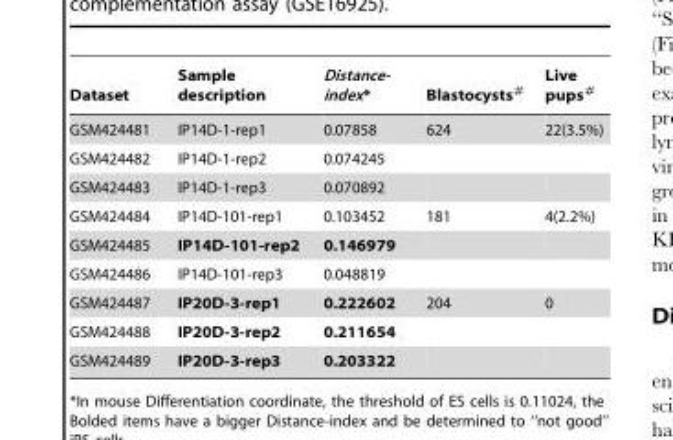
<table><thead><tr><td>Dataset</td><td>Sample description</td><td>Distance- index*</td><td>Blastocysts#</td><td>Live pups#</td></tr></thead><tbody><tr><td>GSM424481</td><td>IP14D-1-rep1</td><td>0.07858</td><td>624</td><td>22(3.5%)</td></tr><tr><td>GSM424482</td><td>IP14D-1-rep2</td><td>0.074245</td><td></td><td></td></tr><tr><td>GSM424483</td><td>IP14D-1-rep3</td><td>0.070892</td><td></td><td></td></tr><tr><td>GSM424484</td><td>IP14D-101-rep1</td><td>0.103452</td><td>181</td><td>4(2.2%)</td></tr><tr><td>GSM424485</td><td>IP14D-101-rep2</td><td>0.146979</td><td></td><td></td></tr><tr><td>GSM424486</td><td>IP14D-101-rep3</td><td>0.048819</td><td></td><td></td></tr><tr><td>GSM424487</td><td>IP20D-3-rep1</td><td>0.222602</td><td>204</td><td>0</td></tr><tr><td>GSM424488</td><td>IP20D-3-rep2</td><td>0.211654</td><td></td><td></td></tr><tr><td>GSM424489</td><td>IP20D-3-rep3</td><td>0.203322</td><td></td><td></td></tr></tbody></table>